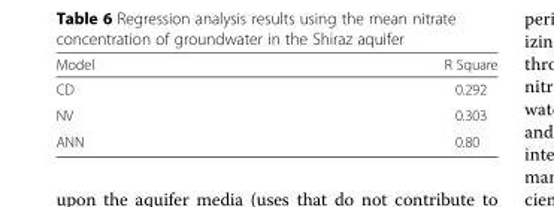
<table><thead><tr><td>Model</td><td>R Square</td></tr></thead><tbody><tr><td>CD</td><td>0.292</td></tr><tr><td>NV</td><td>0.303</td></tr><tr><td>ANN</td><td>0.80</td></tr></tbody></table>